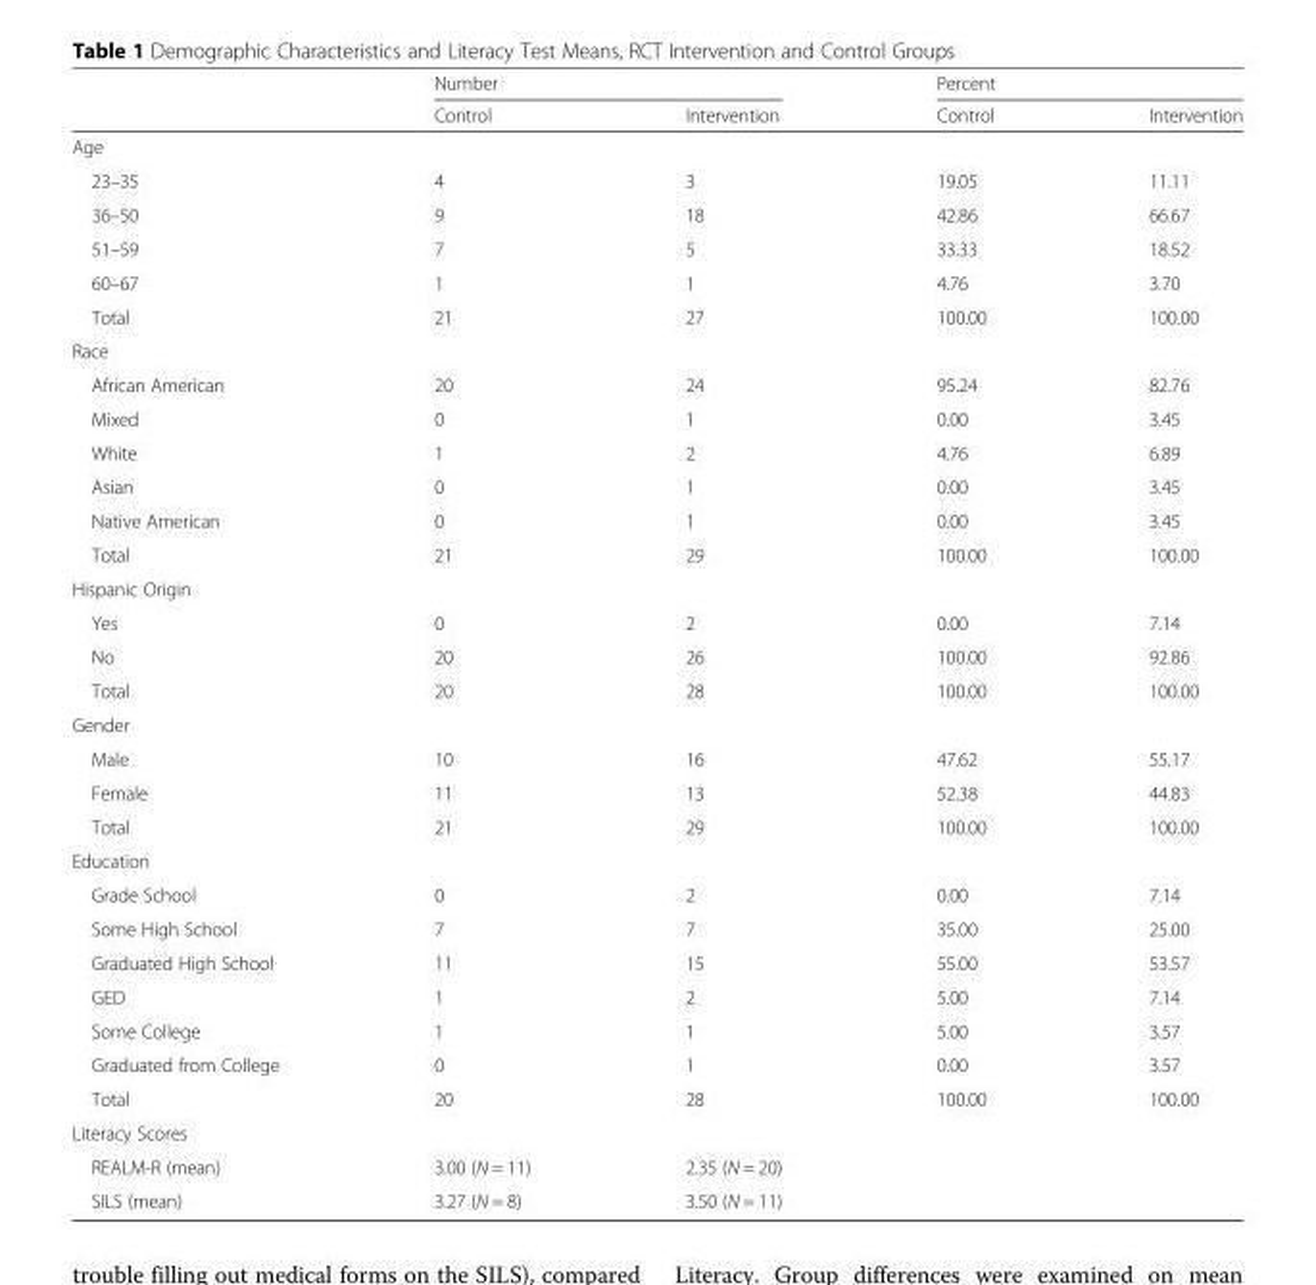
<table><thead><tr><td rowspan="2"></td><td colspan="2">Number</td><td colspan="2">Percent</td></tr><tr><td>Control</td><td>Intervention</td><td>Control</td><td>Intervention</td></tr></thead><tbody><tr><td colspan="5">Age</td></tr><tr><td>23–35</td><td>4</td><td>3</td><td>19.05</td><td>11.11</td></tr><tr><td>36–50</td><td>9</td><td>18</td><td>42.86</td><td>66.67</td></tr><tr><td>51–59</td><td>7</td><td>5</td><td>33.33</td><td>18.52</td></tr><tr><td>60–67</td><td>1</td><td>1</td><td>4.76</td><td>3.70</td></tr><tr><td>Total</td><td>21</td><td>27</td><td>100.00</td><td>100.00</td></tr><tr><td colspan="5">Race</td></tr><tr><td>African American</td><td>20</td><td>24</td><td>95.24</td><td>82.76</td></tr><tr><td>Mixed</td><td>0</td><td>1</td><td>0.00</td><td>3.45</td></tr><tr><td>White</td><td>1</td><td>2</td><td>4.76</td><td>6.89</td></tr><tr><td>Asian</td><td>0</td><td>1</td><td>0.00</td><td>3.45</td></tr><tr><td>Native American</td><td>0</td><td>1</td><td>0.00</td><td>3.45</td></tr><tr><td>Total</td><td>21</td><td>29</td><td>100.00</td><td>100.00</td></tr><tr><td colspan="5">Hispanic Origin</td></tr><tr><td>Yes</td><td>0</td><td>2</td><td>0.00</td><td>7.14</td></tr><tr><td>No</td><td>20</td><td>26</td><td>100.00</td><td>92.86</td></tr><tr><td>Total</td><td>20</td><td>28</td><td>100.00</td><td>100.00</td></tr><tr><td colspan="5">Gender</td></tr><tr><td>Male</td><td>10</td><td>16</td><td>47.62</td><td>55.17</td></tr><tr><td>Female</td><td>11</td><td>13</td><td>52.38</td><td>44.83</td></tr><tr><td>Total</td><td>21</td><td>29</td><td>100.00</td><td>100.00</td></tr><tr><td colspan="5">Education</td></tr><tr><td>Grade School</td><td>0</td><td>2</td><td>0.00</td><td>7.14</td></tr><tr><td>Some High School</td><td>7</td><td>7</td><td>35.00</td><td>25.00</td></tr><tr><td>Graduated High School</td><td>11</td><td>15</td><td>55.00</td><td>53.57</td></tr><tr><td>GED</td><td>1</td><td>2</td><td>5.00</td><td>7.14</td></tr><tr><td>Some College</td><td>1</td><td>1</td><td>5.00</td><td>3.57</td></tr><tr><td>Graduated from College</td><td>0</td><td>1</td><td>0.00</td><td>3.57</td></tr><tr><td>Total</td><td>20</td><td>28</td><td>100.00</td><td>100.00</td></tr><tr><td colspan="5">Literacy Scores</td></tr><tr><td>REALM-R (mean)</td><td>3.00 (N = 11)</td><td>2.35 (N = 20)</td><td></td><td></td></tr><tr><td>SILS (mean)</td><td>3.27 (N = 8)</td><td>3.50 (N = 11)</td><td></td><td></td></tr></tbody></table>